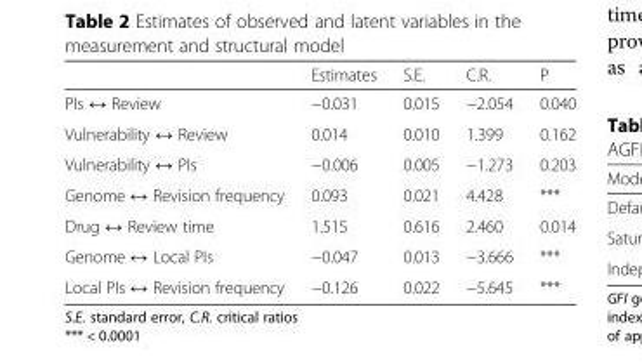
<table><thead><tr><td></td><td>Estimates</td><td>S.E.</td><td>C.R.</td><td>P</td></tr></thead><tbody><tr><td>PIs ↔ Review</td><td>−0.031</td><td>0.015</td><td>−2.054</td><td>0.040</td></tr><tr><td>Vulnerability ↔ Review</td><td>0.014</td><td>0.010</td><td>1.399</td><td>0.162</td></tr><tr><td>Vulnerability ↔ PIs</td><td>−0.006</td><td>0.005</td><td>−1.273</td><td>0.203</td></tr><tr><td>Genome ↔ Revision frequency</td><td>0.093</td><td>0.021</td><td>4.428</td><td>***</td></tr><tr><td>Drug ↔ Review time</td><td>1.515</td><td>0.616</td><td>2.460</td><td>0.014</td></tr><tr><td>Genome ↔ Local PIs</td><td>−0.047</td><td>0.013</td><td>−3.666</td><td>***</td></tr><tr><td>Local PIs ↔ Revision frequency</td><td>−0.126</td><td>0.022</td><td>−5.645</td><td>***</td></tr></tbody></table>